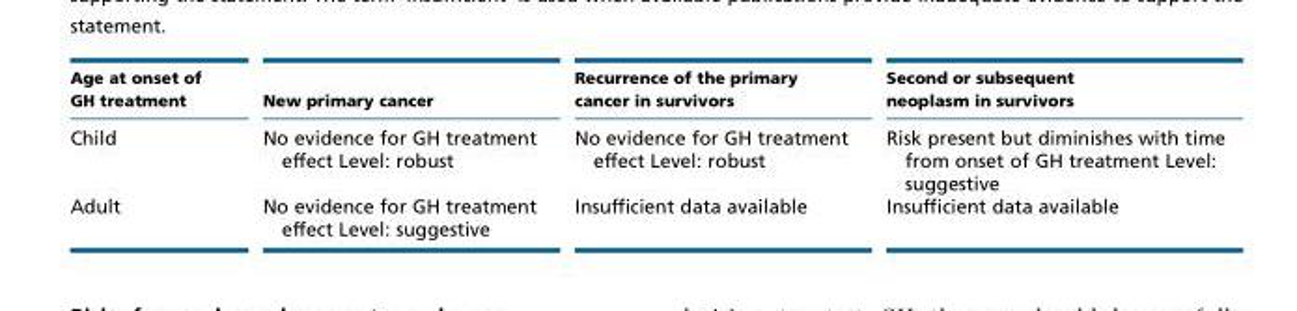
<table><thead><tr><td>Age at onset of GH treatment</td><td>New primary cancer</td><td>Recurrence of the primary cancer in survivors</td><td>Second or subsequent neoplasm in survivors</td></tr></thead><tbody><tr><td>Child</td><td>No evidence for GH treatment effect Level: robust</td><td>No evidence for GH treatment effect Level: robust</td><td>Risk present but diminishes with time from onset of GH treatment Level: suggestive</td></tr><tr><td>Adult</td><td>No evidence for GH treatment effect Level: suggestive</td><td>Insufficient data available</td><td>Insufficient data available</td></tr></tbody></table>